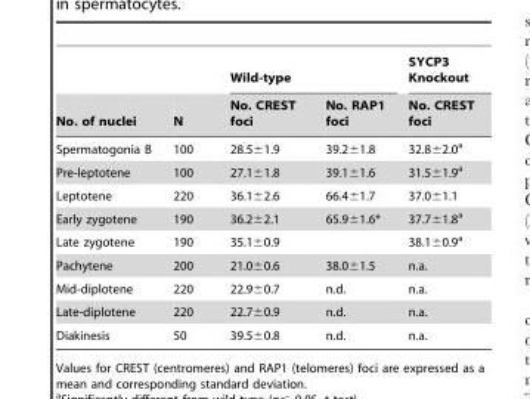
<table><thead><tr><td rowspan="2">No. of nuclei</td><td rowspan="2">N</td><td colspan="2">Wild-type</td><td rowspan="2">SYCP3 Knockout No. CREST foci</td></tr><tr><td>No. CREST foci</td><td>No. RAP1 foci</td></tr></thead><tbody><tr><td>Spermatogonia B</td><td>100</td><td>28.5±1.9</td><td>39.2±1.8</td><td>32.8±2.0<sup>a</sup></td></tr><tr><td>Pre-leptotene</td><td>100</td><td>27.1±1.8</td><td>39.1±1.6</td><td>31.5±1.9<sup>a</sup></td></tr><tr><td>Leptotene</td><td>220</td><td>36.1±2.6</td><td>66.4±1.7</td><td>37.0±1.1</td></tr><tr><td>Early zygotene</td><td>190</td><td>36.2±2.1</td><td>65.9±1.6*</td><td>37.7±1.8<sup>a</sup></td></tr><tr><td>Late zygotene</td><td>190</td><td>35.1±0.9</td><td></td><td>38.1±0.9<sup>a</sup></td></tr><tr><td>Pachytene</td><td>200</td><td>21.0±0.6</td><td>38.0±1.5</td><td>n.a.</td></tr><tr><td>Mid-diplotene</td><td>220</td><td>22.9±0.7</td><td>n.d.</td><td>n.a.</td></tr><tr><td>Late-diplotene</td><td>220</td><td>22.7±0.9</td><td>n.d.</td><td>n.a.</td></tr><tr><td>Diakinesis</td><td>50</td><td>39.5±0.8</td><td>n.d.</td><td>n.a.</td></tr></tbody></table>